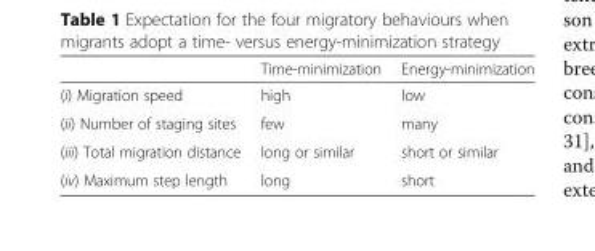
<table><thead><tr><td></td><td>Time-minimization</td><td>Energy-minimization</td></tr></thead><tbody><tr><td>(i) Migration speed</td><td>high</td><td>low</td></tr><tr><td>(ii) Number of staging sites</td><td>few</td><td>many</td></tr><tr><td>(iii) Total migration distance</td><td>long or similar</td><td>short or similar</td></tr><tr><td>(iv) Maximum step length</td><td>long</td><td>short</td></tr></tbody></table>